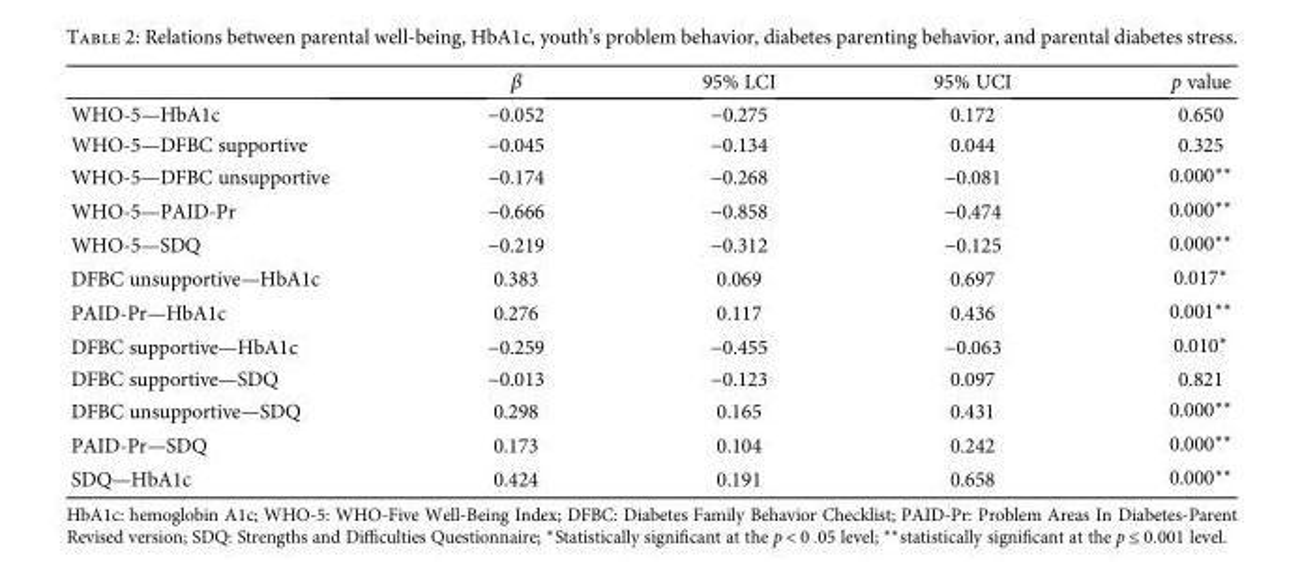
<table><thead><tr><td></td><td>β</td><td>95% LCI</td><td>95% UCI</td><td>p value</td></tr></thead><tbody><tr><td>WHO-5—HbA1c</td><td>−0.052</td><td>−0.275</td><td>0.172</td><td>0.650</td></tr><tr><td>WHO-5—DFBC supportive</td><td>−0.045</td><td>−0.134</td><td>0.044</td><td>0.325</td></tr><tr><td>WHO-5—DFBC unsupportive</td><td>−0.174</td><td>−0.268</td><td>−0.081</td><td>0.000∗∗</td></tr><tr><td>WHO-5—PAID-Pr</td><td>−0.666</td><td>−0.858</td><td>−0.474</td><td>0.000∗∗</td></tr><tr><td>WHO-5—SDQ</td><td>−0.219</td><td>−0.312</td><td>−0.125</td><td>0.000∗∗</td></tr><tr><td>DFBC unsupportive—HbA1c</td><td>0.383</td><td>0.069</td><td>0.697</td><td>0.017∗</td></tr><tr><td>PAID-Pr—HbA1c</td><td>0.276</td><td>0.117</td><td>0.436</td><td>0.001∗∗</td></tr><tr><td>DFBC supportive—HbA1c</td><td>−0.259</td><td>−0.455</td><td>−0.063</td><td>0.010∗</td></tr><tr><td>DFBC supportive—SDQ</td><td>−0.013</td><td>−0.123</td><td>0.097</td><td>0.821</td></tr><tr><td>DFBC unsupportive—SDQ</td><td>0.298</td><td>0.165</td><td>0.431</td><td>0.000∗∗</td></tr><tr><td>PAID-Pr—SDQ</td><td>0.173</td><td>0.104</td><td>0.242</td><td>0.000∗∗</td></tr><tr><td>SDQ—HbA1c</td><td>0.424</td><td>0.191</td><td>0.658</td><td>0.000∗∗</td></tr></tbody></table>